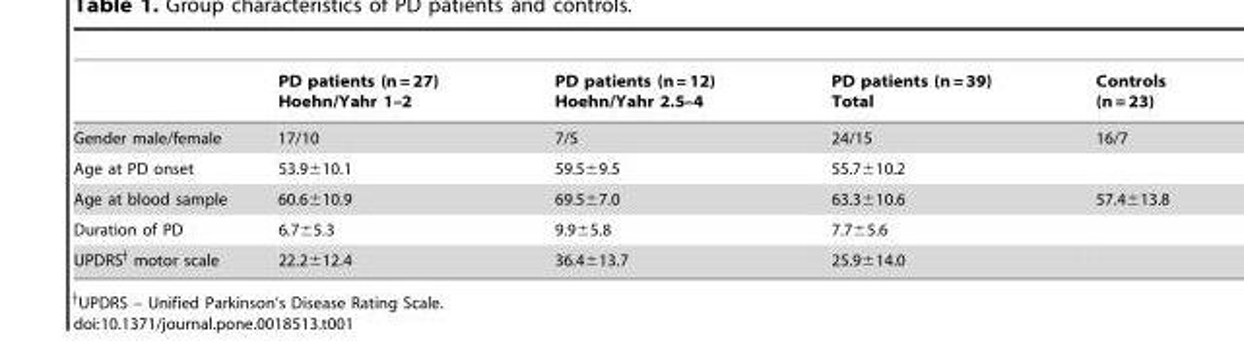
<table><thead><tr><td></td><td>PD patients (n = 27) Hoehn/Yahr 1–2</td><td>PD patients (n = 12) Hoehn/Yahr 2.5–4</td><td>PD patients (n = 39) Total</td><td>Controls (n = 23)</td></tr></thead><tbody><tr><td>Gender male/female</td><td>17/10</td><td>7/5</td><td>24/15</td><td>16/7</td></tr><tr><td>Age at PD onset</td><td>53.9±10.1</td><td>59.5±9.5</td><td>55.7±10.2</td><td></td></tr><tr><td>Age at blood sample</td><td>60.6±10.9</td><td>69.5±7.0</td><td>63.3±10.6</td><td>57.4±13.8</td></tr><tr><td>Duration of PD</td><td>6.7±5.3</td><td>9.9±5.8</td><td>7.7±5.6</td><td></td></tr><tr><td>UPDRS|– motor scale</td><td>22.2±12.4</td><td>36.4±13.7</td><td>25.9±14.0</td><td></td></tr></tbody></table>